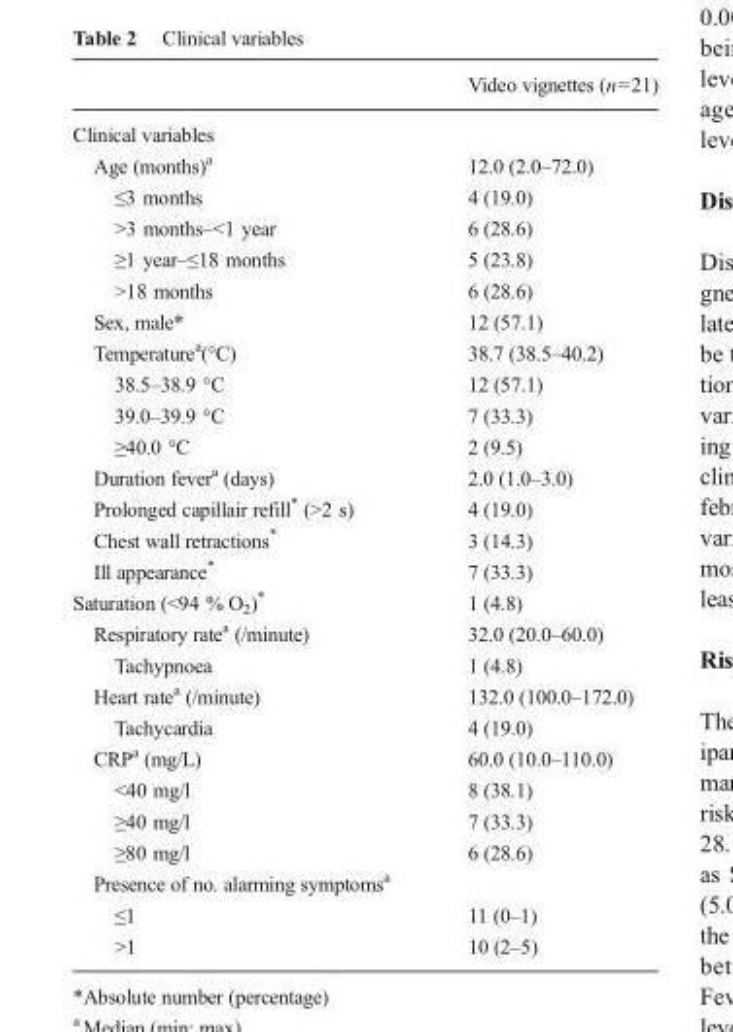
<table><thead><tr><td></td><td>Video vignettes (n=21)</td></tr></thead><tbody><tr><td colspan="2">Clinical variables</td></tr><tr><td>Age (months)<sup>a</sup></td><td>12.0 (2.0–72.0)</td></tr><tr><td>≤3 months</td><td>4 (19.0)</td></tr><tr><td>&gt;3 months–&lt;1 year</td><td>6 (28.6)</td></tr><tr><td>≥1 year–≤18 months</td><td>5 (23.8)</td></tr><tr><td>&gt;18 months</td><td>6 (28.6)</td></tr><tr><td>Sex, male*</td><td>12 (57.1)</td></tr><tr><td>Temperature<sup>a</sup>(°C)</td><td>38.7 (38.5–40.2)</td></tr><tr><td>38.5–38.9 °C</td><td>12 (57.1)</td></tr><tr><td>39.0–39.9 °C</td><td>7 (33.3)</td></tr><tr><td>≥40.0 °C</td><td>2 (9.5)</td></tr><tr><td>Duration fever<sup>a</sup> (days)</td><td>2.0 (1.0–3.0)</td></tr><tr><td>Prolonged capillair refill* (&gt;2 s)</td><td>4 (19.0)</td></tr><tr><td>Chest wall retractions*</td><td>3 (14.3)</td></tr><tr><td>Ill appearance*</td><td>7 (33.3)</td></tr><tr><td>Saturation (&lt;94 % O<sub>2</sub>)*</td><td>1 (4.8)</td></tr><tr><td>Respiratory rate<sup>a</sup> (/minute)</td><td>32.0 (20.0–60.0)</td></tr><tr><td>Tachypnoea</td><td>1 (4.8)</td></tr><tr><td>Heart rate<sup>a</sup> (/minute)</td><td>132.0 (100.0–172.0)</td></tr><tr><td>Tachycardia</td><td>4 (19.0)</td></tr><tr><td>CRP<sup>a</sup> (mg/L)</td><td>60.0 (10.0–110.0)</td></tr><tr><td>&lt;40 mg/l</td><td>8 (38.1)</td></tr><tr><td>≥40 mg/l</td><td>7 (33.3)</td></tr><tr><td>≥80 mg/l</td><td>6 (28.6)</td></tr><tr><td colspan="2">Presence of no. alarming symptoms<sup>a</sup></td></tr><tr><td>≤1</td><td>11 (0–1)</td></tr><tr><td>&gt;1</td><td>10 (2–5)</td></tr></tbody></table>